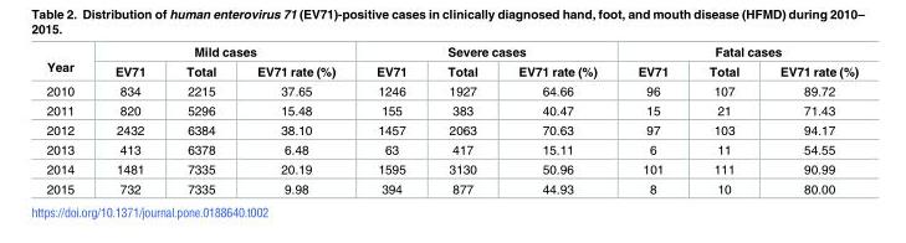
<table><thead><tr><td rowspan="2">Year</td><td colspan="3">Mild cases</td><td colspan="3">Severe cases</td><td colspan="3">Fatal cases</td></tr><tr><td>EV71</td><td>Total</td><td>EV71 rate (%)</td><td>EV71</td><td>Total</td><td>EV71 rate (%)</td><td>EV71</td><td>Total</td><td>EV71 rate (%)</td></tr></thead><tbody><tr><td>2010</td><td>834</td><td>2215</td><td>37.65</td><td>1246</td><td>1927</td><td>64.66</td><td>96</td><td>107</td><td>89.72</td></tr><tr><td>2011</td><td>820</td><td>5296</td><td>15.48</td><td>155</td><td>383</td><td>40.47</td><td>15</td><td>21</td><td>71.43</td></tr><tr><td>2012</td><td>2432</td><td>6384</td><td>38.10</td><td>1457</td><td>2063</td><td>70.63</td><td>97</td><td>103</td><td>94.17</td></tr><tr><td>2013</td><td>413</td><td>6378</td><td>6.48</td><td>63</td><td>417</td><td>15.11</td><td>6</td><td>11</td><td>54.55</td></tr><tr><td>2014</td><td>1481</td><td>7335</td><td>20.19</td><td>1595</td><td>3130</td><td>50.96</td><td>101</td><td>111</td><td>90.99</td></tr><tr><td>2015</td><td>732</td><td>7335</td><td>9.98</td><td>394</td><td>877</td><td>44.93</td><td>8</td><td>10</td><td>80.00</td></tr></tbody></table>